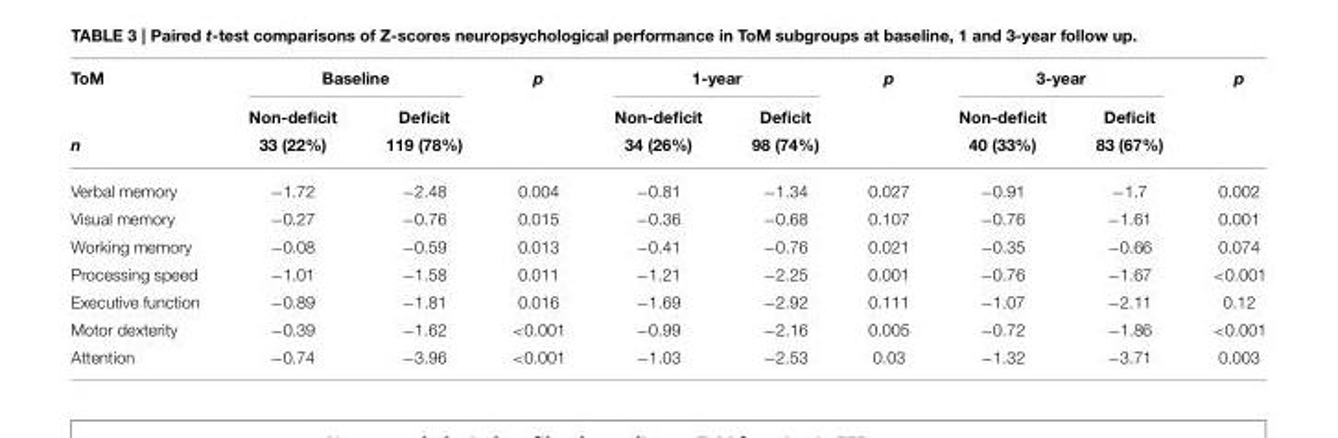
<table><thead><tr><td rowspan="3">ToM n</td><td colspan="2">Baseline</td><td rowspan="3">p</td><td colspan="2">1-year</td><td rowspan="3">p</td><td colspan="2">3-year</td><td rowspan="3">p</td></tr><tr><td rowspan="2">Non-deficit 33 (22%)</td><td rowspan="2">Deficit 119 (78%)</td><td rowspan="2">Non-deficit 34 (26%)</td><td rowspan="2">Deficit 98 (74%)</td><td rowspan="2">Non-deficit 40 (33%)</td><td rowspan="2">Deficit 83 (67%)</td></tr><tr></tr></thead><tbody><tr><td>Verbal memory</td><td>−1.72</td><td>−2.48</td><td>0.004</td><td>−0.81</td><td>−1.34</td><td>0.027</td><td>−0.91</td><td>−1.7</td><td>0.002</td></tr><tr><td>Visual memory</td><td>−0.27</td><td>−0.76</td><td>0.015</td><td>−0.36</td><td>−0.68</td><td>0.107</td><td>−0.76</td><td>−1.61</td><td>0.001</td></tr><tr><td>Working memory</td><td>−0.08</td><td>−0.59</td><td>0.013</td><td>−0.41</td><td>−0.76</td><td>0.021</td><td>−0.35</td><td>−0.66</td><td>0.074</td></tr><tr><td>Processing speed</td><td>−1.01</td><td>−1.58</td><td>0.011</td><td>−1.21</td><td>−2.25</td><td>0.001</td><td>−0.76</td><td>−1.67</td><td>&lt;0.001</td></tr><tr><td>Executive function</td><td>−0.89</td><td>−1.81</td><td>0.016</td><td>−1.69</td><td>−2.92</td><td>0.111</td><td>−1.07</td><td>−2.11</td><td>0.12</td></tr><tr><td>Motor dexterity</td><td>−0.39</td><td>−1.62</td><td>&lt;0.001</td><td>−0.99</td><td>−2.16</td><td>0.005</td><td>−0.72</td><td>−1.86</td><td>&lt;0.001</td></tr><tr><td>Attention</td><td>−0.74</td><td>−3.96</td><td>&lt;0.001</td><td>−1.03</td><td>−2.53</td><td>0.03</td><td>−1.32</td><td>−3.71</td><td>0.003</td></tr></tbody></table>